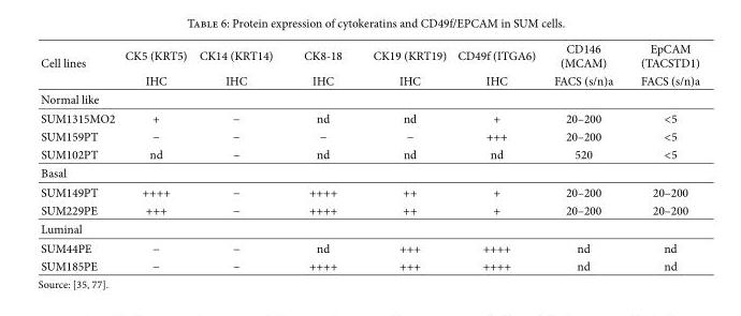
<table><thead><tr><td rowspan="2">Cell lines</td><td rowspan="2">CK5 (KRT5) IHC</td><td rowspan="2">CK14 (KRT14) IHC</td><td rowspan="2">CK8-18 IHC</td><td rowspan="2">CK19 (KRT19) IHC</td><td rowspan="2">CD49f (ITGA6) IHC</td><td rowspan="2">CD146 (MCAM) FACS (s/n)a</td><td rowspan="2">EpCAM (TACSTD1) FACS (s/n)a</td></tr><tr></tr></thead><tbody><tr><td colspan="8">Normal like</td></tr><tr><td>SUM1315MO2</td><td>+</td><td>−</td><td>nd</td><td>nd</td><td>+</td><td>20–200</td><td>&lt;5</td></tr><tr><td>SUM159PT</td><td>−</td><td>−</td><td>−</td><td>−</td><td>+++</td><td>20–200</td><td>&lt;5</td></tr><tr><td>SUM102PT</td><td>nd</td><td>−</td><td>nd</td><td>nd</td><td>nd</td><td>520</td><td>&lt;5</td></tr><tr><td colspan="8">Basal</td></tr><tr><td>SUM149PT</td><td>++++</td><td>−</td><td>++++</td><td>++</td><td>+</td><td>20–200</td><td>20–200</td></tr><tr><td>SUM229PE</td><td>+++</td><td>−</td><td>++++</td><td>++</td><td>+</td><td>20–200</td><td>20–200</td></tr><tr><td colspan="8">Luminal</td></tr><tr><td>SUM44PE</td><td>−</td><td>−</td><td>nd</td><td>+++</td><td>++++</td><td>nd</td><td>nd</td></tr><tr><td>SUM185PE</td><td>−</td><td>−</td><td>++++</td><td>+++</td><td>++++</td><td>nd</td><td>nd</td></tr></tbody></table>